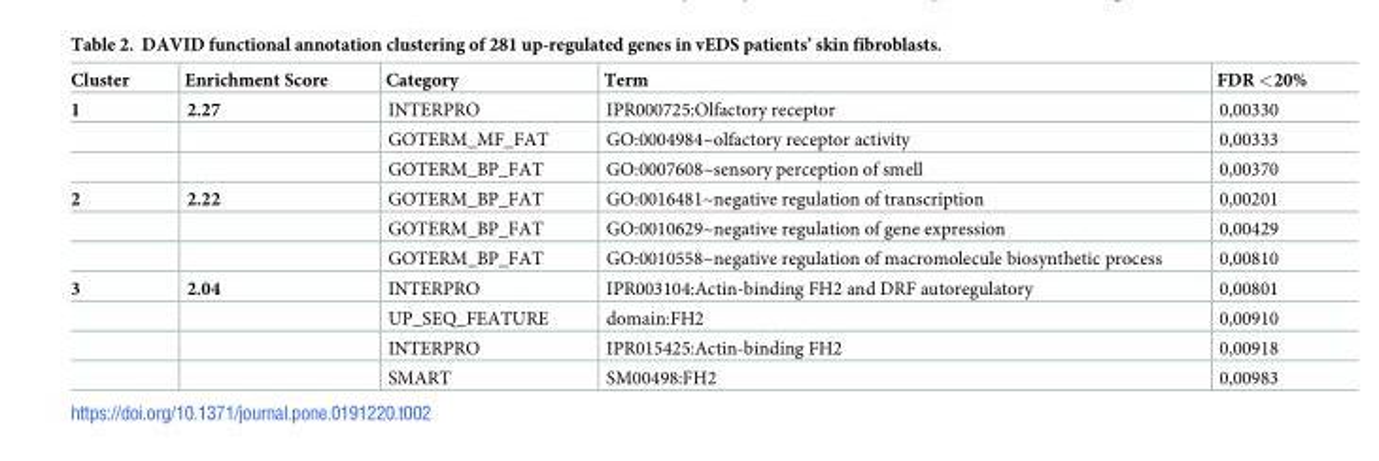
<table><thead><tr><td>Cluster</td><td>Enrichment Score</td><td>Category</td><td>Term</td><td>FDR &lt;20%</td></tr></thead><tbody><tr><td rowspan="3">1</td><td>2.27</td><td>INTERPRO</td><td>IPR000725:Olfactory receptor</td><td>0,00330</td></tr><tr><td></td><td>GOTERM_MF_FAT</td><td>GO:0004984~olfactory receptor activity</td><td>0,00333</td></tr><tr><td></td><td>GOTERM_BP_FAT</td><td>GO:0007608~sensory perception of smell</td><td>0,00370</td></tr><tr><td rowspan="3">2</td><td>2.22</td><td>GOTERM_BP_FAT</td><td>GO:0016481~negative regulation of transcription</td><td>0,00201</td></tr><tr><td></td><td>GOTERM_BP_FAT</td><td>GO:0010629~negative regulation of gene expression</td><td>0,00429</td></tr><tr><td></td><td>GOTERM_BP_FAT</td><td>GO:0010558~negative regulation of macromolecule biosynthetic process</td><td>0,00810</td></tr><tr><td rowspan="4">3</td><td>2.04</td><td>INTERPRO</td><td>IPR003104:Actin-binding FH2 and DRF autoregulatory</td><td>0,00801</td></tr><tr><td></td><td>UP_SEQ_FEATURE</td><td>domain:FH2</td><td>0,00910</td></tr><tr><td></td><td>INTERPRO</td><td>IPR015425:Actin-binding FH2</td><td>0,00918</td></tr><tr><td></td><td>SMART</td><td>SM00498:FH2</td><td>0,00983</td></tr></tbody></table>